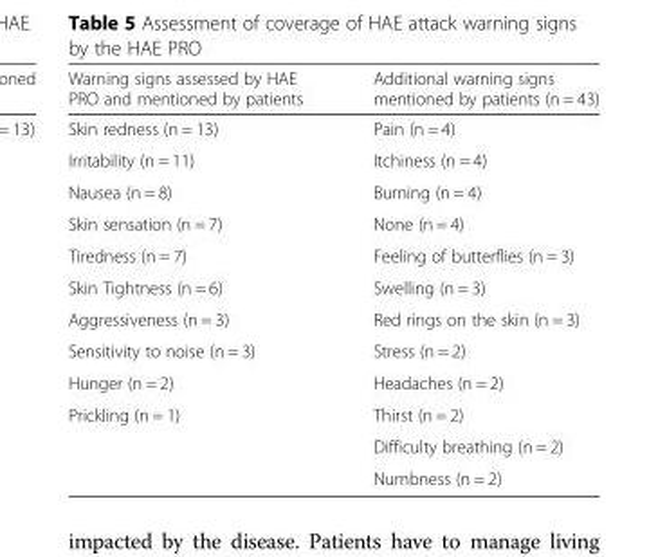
<table><thead><tr><td>Warning signs assessed by HAE PRO and mentioned by patients</td><td>Additional warning signs mentioned by patients (n = 43)</td></tr></thead><tbody><tr><td>Skin redness (n = 13)</td><td>Pain (n = 4)</td></tr><tr><td>Irritability (n = 11)</td><td>Itchiness (n = 4)</td></tr><tr><td>Nausea (n = 8)</td><td>Burning (n = 4)</td></tr><tr><td>Skin sensation (n = 7)</td><td>None (n = 4)</td></tr><tr><td>Tiredness (n = 7)</td><td>Feeling of butterflies (n = 3)</td></tr><tr><td>Skin Tightness (n = 6)</td><td>Swelling (n = 3)</td></tr><tr><td>Aggressiveness (n = 3)</td><td>Red rings on the skin (n = 3)</td></tr><tr><td>Sensitivity to noise (n = 3)</td><td>Stress (n = 2)</td></tr><tr><td>Hunger (n = 2)</td><td>Headaches (n = 2)</td></tr><tr><td rowspan="3">Prickling (n = 1)</td><td>Thirst (n = 2)</td></tr><tr><td>Difficulty breathing (n = 2)</td></tr><tr><td>Numbness (n = 2)</td></tr></tbody></table>